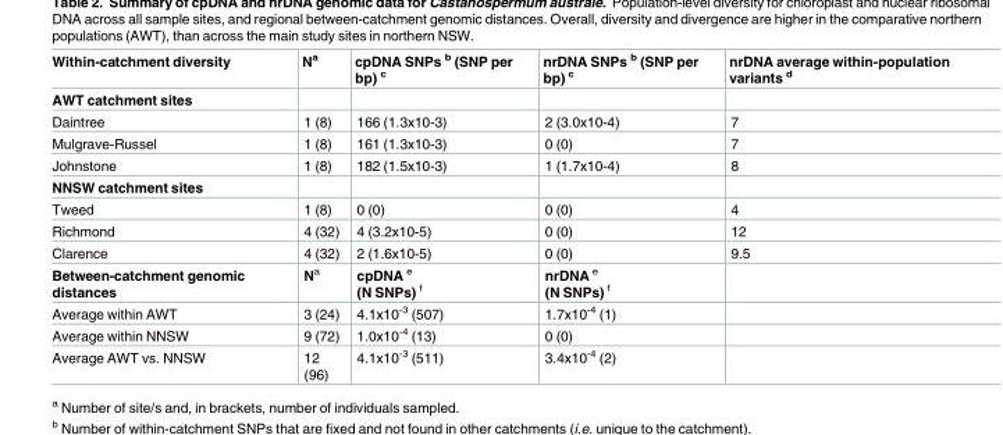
<table><thead><tr><td>Within-catchment diversity</td><td>N<sup>a</sup></td><td>cpDNA SNPs <sup>b</sup> (SNP per bp) <sup>c</sup></td><td>nrDNA SNPs <sup>b</sup> (SNP per bp) <sup>c</sup></td><td>nrDNA average within-population variants <sup>d</sup></td></tr></thead><tbody><tr><td colspan="5">AWT catchment sites</td></tr><tr><td>Daintree</td><td>1 (8)</td><td>166 (1.3x10-3)</td><td>2 (3.0x10-4)</td><td>7</td></tr><tr><td>Mulgrave-Russel</td><td>1 (8)</td><td>161 (1.3x10-3)</td><td>0 (0)</td><td>7</td></tr><tr><td>Johnstone</td><td>1 (8)</td><td>182 (1.5x10-3)</td><td>1 (1.7x10-4)</td><td>8</td></tr><tr><td colspan="5">NNSW catchment sites</td></tr><tr><td>Tweed</td><td>1 (8)</td><td>0 (0)</td><td>0 (0)</td><td>4</td></tr><tr><td>Richmond</td><td>4 (32)</td><td>4 (3.2x10-5)</td><td>0 (0)</td><td>12</td></tr><tr><td>Clarence</td><td>4 (32)</td><td>2 (1.6x10-5)</td><td>0 (0)</td><td>9.5</td></tr><tr><td>Between-catchment genomic distances</td><td>N<sup>a</sup></td><td>cpDNA <sup>e</sup> (N SNPs) <sup>f</sup></td><td>nrDNA <sup>e</sup> (N SNPs) <sup>f</sup></td><td></td></tr><tr><td>Average within AWT</td><td>3 (24)</td><td>4.1x10<sup>-3</sup> (507)</td><td>1.7x10<sup>-4</sup> (1)</td><td></td></tr><tr><td>Average within NNSW</td><td>9 (72)</td><td>1.0x10<sup>-4</sup> (13)</td><td>0 (0)</td><td></td></tr><tr><td>Average AWT vs. NNSW</td><td>12 (96)</td><td>4.1x10<sup>-3</sup> (511)</td><td>3.4x10<sup>-4</sup> (2)</td><td></td></tr></tbody></table>